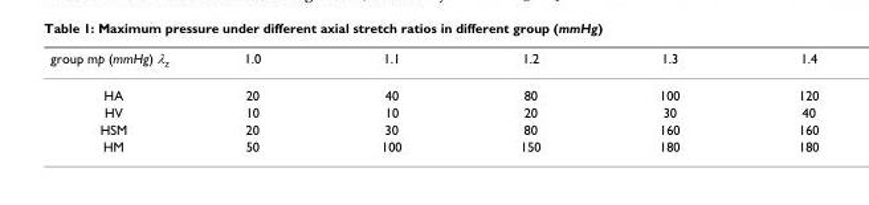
<table><thead><tr><td>group mp (mmHg) λ<sub>z</sub></td><td>1.0</td><td>1.1</td><td>1.2</td><td>1.3</td><td>1.4</td></tr></thead><tbody><tr><td>HA</td><td>20</td><td>40</td><td>80</td><td>100</td><td>120</td></tr><tr><td>HV</td><td>10</td><td>10</td><td>20</td><td>30</td><td>40</td></tr><tr><td>HSM</td><td>20</td><td>30</td><td>80</td><td>160</td><td>160</td></tr><tr><td>HM</td><td>50</td><td>100</td><td>150</td><td>180</td><td>180</td></tr></tbody></table>